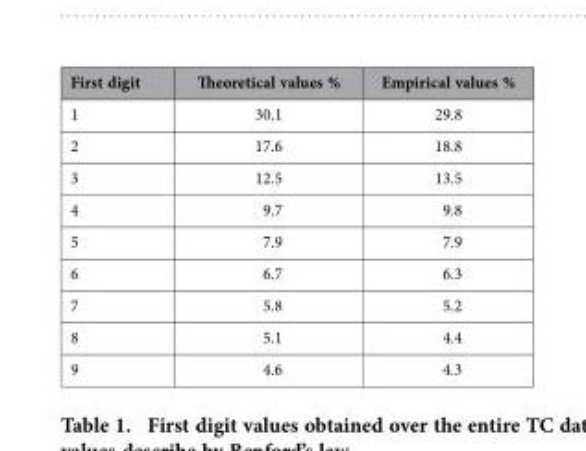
<table><thead><tr><td>First digit</td><td>Theoretical values %</td><td>Empirical values %</td></tr></thead><tbody><tr><td>1</td><td>30.1</td><td>29.8</td></tr><tr><td>2</td><td>17.6</td><td>18.8</td></tr><tr><td>3</td><td>12.5</td><td>13.5</td></tr><tr><td>4</td><td>9.7</td><td>9.8</td></tr><tr><td>5</td><td>7.9</td><td>7.9</td></tr><tr><td>6</td><td>6.7</td><td>6.3</td></tr><tr><td>7</td><td>5.8</td><td>5.2</td></tr><tr><td>8</td><td>5.1</td><td>4.4</td></tr><tr><td>9</td><td>4.6</td><td>4.3</td></tr></tbody></table>